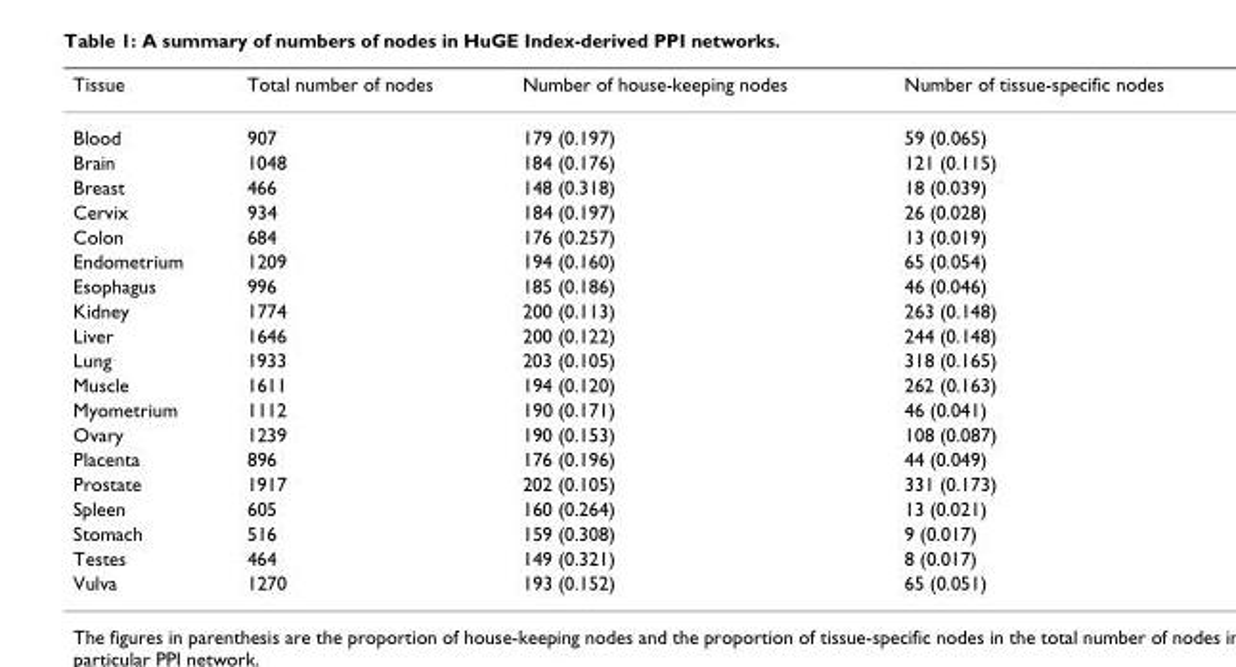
<table><thead><tr><td>Tissue</td><td>Total number of nodes</td><td>Number of house-keeping nodes</td><td>Number of tissue-specific nodes</td></tr></thead><tbody><tr><td>Blood</td><td>907</td><td>179 (0.197)</td><td>59 (0.065)</td></tr><tr><td>Brain</td><td>1048</td><td>184 (0.176)</td><td>121 (0.115)</td></tr><tr><td>Breast</td><td>466</td><td>148 (0.318)</td><td>18 (0.039)</td></tr><tr><td>Cervix</td><td>934</td><td>184 (0.197)</td><td>26 (0.028)</td></tr><tr><td>Colon</td><td>684</td><td>176 (0.257)</td><td>13 (0.019)</td></tr><tr><td>Endometrium</td><td>1209</td><td>194 (0.160)</td><td>65 (0.054)</td></tr><tr><td>Esophagus</td><td>996</td><td>185 (0.186)</td><td>46 (0.046)</td></tr><tr><td>Kidney</td><td>1774</td><td>200 (0.113)</td><td>263 (0.148)</td></tr><tr><td>Liver</td><td>1646</td><td>200 (0.122)</td><td>244 (0.148)</td></tr><tr><td>Lung</td><td>1933</td><td>203 (0.105)</td><td>318 (0.165)</td></tr><tr><td>Muscle</td><td>1611</td><td>194 (0.120)</td><td>262 (0.163)</td></tr><tr><td>Myometrium</td><td>1112</td><td>190 (0.171)</td><td>46 (0.041)</td></tr><tr><td>Ovary</td><td>1239</td><td>190 (0.153)</td><td>108 (0.087)</td></tr><tr><td>Placenta</td><td>896</td><td>176 (0.196)</td><td>44 (0.049)</td></tr><tr><td>Prostate</td><td>1917</td><td>202 (0.105)</td><td>331 (0.173)</td></tr><tr><td>Spleen</td><td>605</td><td>160 (0.264)</td><td>13 (0.021)</td></tr><tr><td>Stomach</td><td>516</td><td>159 (0.308)</td><td>9 (0.017)</td></tr><tr><td>Testes</td><td>464</td><td>149 (0.321)</td><td>8 (0.017)</td></tr><tr><td>Vulva</td><td>1270</td><td>193 (0.152)</td><td>65 (0.051)</td></tr></tbody></table>